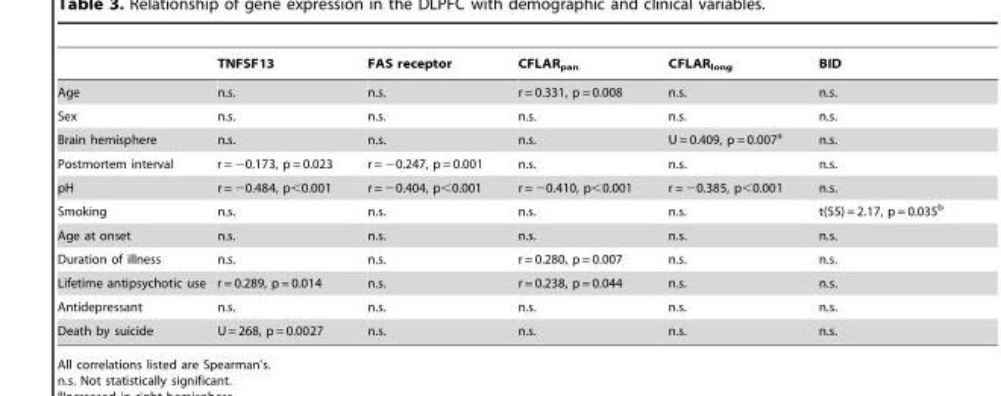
<table><thead><tr><td></td><td>TNFSF13</td><td>FAS receptor</td><td>CFLAR<sub>pan</sub></td><td>CFLAR<sub>long</sub></td><td>BID</td></tr></thead><tbody><tr><td>Age</td><td>n.s.</td><td>n.s.</td><td>r = 0.331, p = 0.008</td><td>n.s.</td><td>n.s.</td></tr><tr><td>Sex</td><td>n.s.</td><td>n.s.</td><td>n.s.</td><td>n.s.</td><td>n.s.</td></tr><tr><td>Brain hemisphere</td><td>n.s.</td><td>n.s.</td><td>n.s.</td><td>U = 0.409, p = 0.007<sup>a</sup></td><td>n.s.</td></tr><tr><td>Postmortem interval</td><td>r = −0.173, p = 0.023</td><td>r = −0.247, p = 0.001</td><td>n.s.</td><td>n.s.</td><td>n.s.</td></tr><tr><td>pH</td><td>r = −0.484, p&lt;0.001</td><td>r = −0.404, p&lt;0.001</td><td>r = −0.410, p&lt;0.001</td><td>r = −0.385, p&lt;0.001</td><td>n.s.</td></tr><tr><td>Smoking</td><td>n.s.</td><td>n.s.</td><td>n.s.</td><td>n.s.</td><td>t(55) = 2.17, p = 0.035<sup>b</sup></td></tr><tr><td>Age at onset</td><td>n.s.</td><td>n.s.</td><td>n.s.</td><td>n.s.</td><td>n.s.</td></tr><tr><td>Duration of illness</td><td>n.s.</td><td>n.s.</td><td>r = 0.280, p = 0.007</td><td>n.s.</td><td>n.s.</td></tr><tr><td>Lifetime antipsychotic use</td><td>r = 0.289, p = 0.014</td><td>n.s.</td><td>r = 0.238, p = 0.044</td><td>n.s.</td><td>n.s.</td></tr><tr><td>Antidepressant</td><td>n.s.</td><td>n.s.</td><td>n.s.</td><td>n.s.</td><td>n.s.</td></tr><tr><td>Death by suicide</td><td>U = 268, p = 0.0027</td><td>n.s.</td><td>n.s.</td><td>n.s.</td><td>n.s.</td></tr></tbody></table>